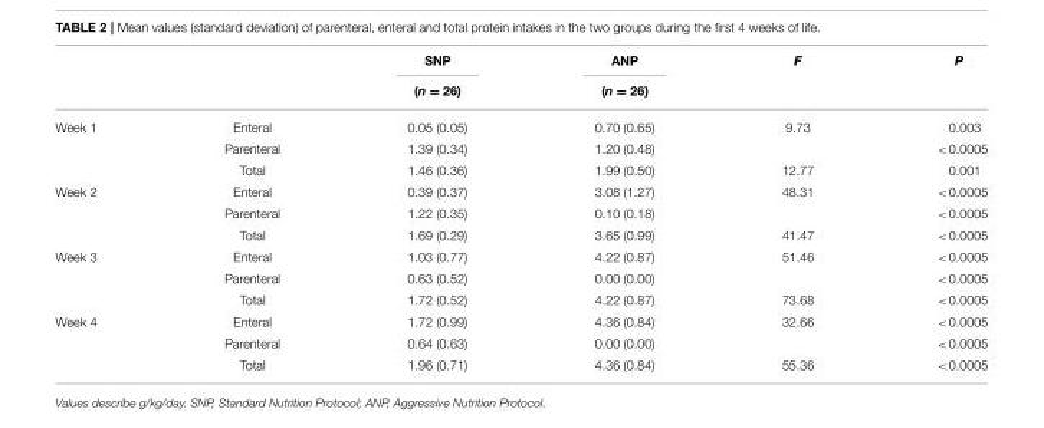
<table><thead><tr><td rowspan="2"></td><td rowspan="2"></td><td rowspan="2">SNP (n = 26)</td><td rowspan="2">ANP (n = 26)</td><td rowspan="2">F</td><td rowspan="2">P</td></tr><tr></tr></thead><tbody><tr><td rowspan="3">Week 1</td><td>Enteral</td><td>0.05 (0.05)</td><td>0.70 (0.65)</td><td>9.73</td><td>0.003</td></tr><tr><td>Parenteral</td><td>1.39 (0.34)</td><td>1.20 (0.48)</td><td></td><td>&lt;0.0005</td></tr><tr><td>Total</td><td>1.46 (0.36)</td><td>1.99 (0.50)</td><td>12.77</td><td>0.001</td></tr><tr><td rowspan="3">Week 2</td><td>Enteral</td><td>0.39 (0.37)</td><td>3.08 (1.27)</td><td>48.31</td><td>&lt;0.0005</td></tr><tr><td>Parenteral</td><td>1.22 (0.35)</td><td>0.10 (0.18)</td><td></td><td>&lt;0.0005</td></tr><tr><td>Total</td><td>1.69 (0.29)</td><td>3.65 (0.99)</td><td>41.47</td><td>&lt;0.0005</td></tr><tr><td rowspan="3">Week 3</td><td>Enteral</td><td>1.03 (0.77)</td><td>4.22 (0.87)</td><td>51.46</td><td>&lt;0.0005</td></tr><tr><td>Parenteral</td><td>0.63 (0.52)</td><td>0.00 (0.00)</td><td></td><td>&lt;0.0005</td></tr><tr><td>Total</td><td>1.72 (0.52)</td><td>4.22 (0.87)</td><td>73.68</td><td>&lt;0.0005</td></tr><tr><td rowspan="3">Week 4</td><td>Enteral</td><td>1.72 (0.99)</td><td>4.36 (0.84)</td><td>32.66</td><td>&lt;0.0005</td></tr><tr><td>Parenteral</td><td>0.64 (0.63)</td><td>0.00 (0.00)</td><td></td><td>&lt;0.0005</td></tr><tr><td>Total</td><td>1.96 (0.71)</td><td>4.36 (0.84)</td><td>55.36</td><td>&lt;0.0005</td></tr></tbody></table>